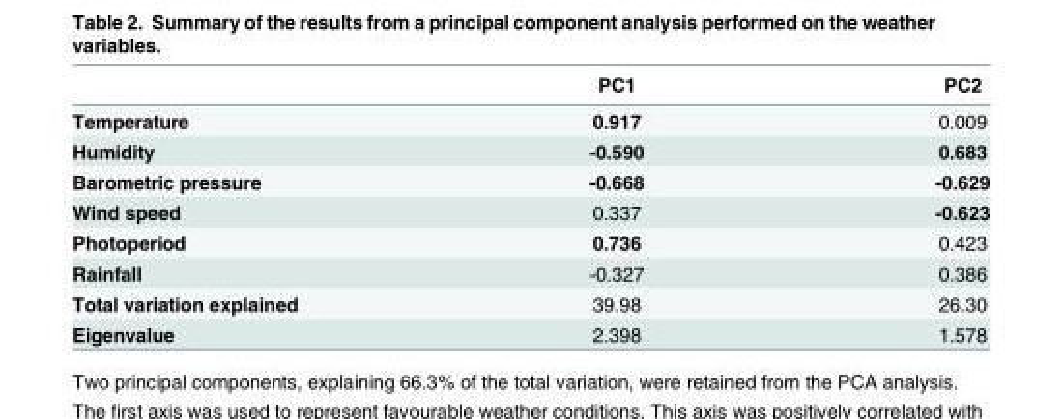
<table><thead><tr><td></td><td>PC1</td><td>PC2</td></tr></thead><tbody><tr><td>Temperature</td><td>0.917</td><td>0.009</td></tr><tr><td>Humidity</td><td>-0.590</td><td>0.683</td></tr><tr><td>Barometric pressure</td><td>-0.668</td><td>-0.629</td></tr><tr><td>Wind speed</td><td>0.337</td><td>-0.623</td></tr><tr><td>Photoperiod</td><td>0.736</td><td>0.423</td></tr><tr><td>Rainfall</td><td>-0.327</td><td>0.386</td></tr><tr><td>Total variation explained</td><td>39.98</td><td>26.30</td></tr><tr><td>Eigenvalue</td><td>2.398</td><td>1.578</td></tr></tbody></table>